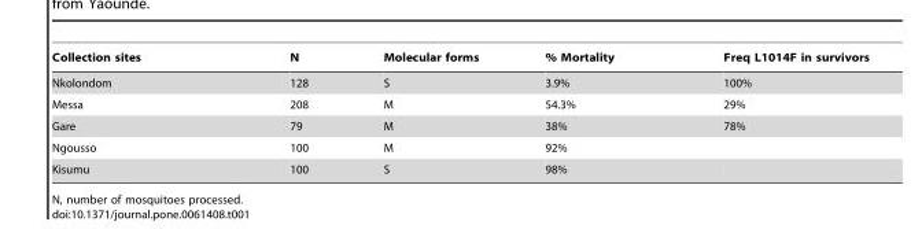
<table><thead><tr><td>Collection sites</td><td>N</td><td>Molecular forms</td><td>% Mortality</td><td>Freq L1014F in survivors</td></tr></thead><tbody><tr><td>Nkolondom</td><td>128</td><td>S</td><td>3.9%</td><td>100%</td></tr><tr><td>Messa</td><td>208</td><td>M</td><td>54.3%</td><td>29%</td></tr><tr><td>Gare</td><td>79</td><td>M</td><td>38%</td><td>78%</td></tr><tr><td>Ngousso</td><td>100</td><td>M</td><td>92%</td><td></td></tr><tr><td>Kisumu</td><td>100</td><td>S</td><td>98%</td><td></td></tr></tbody></table>